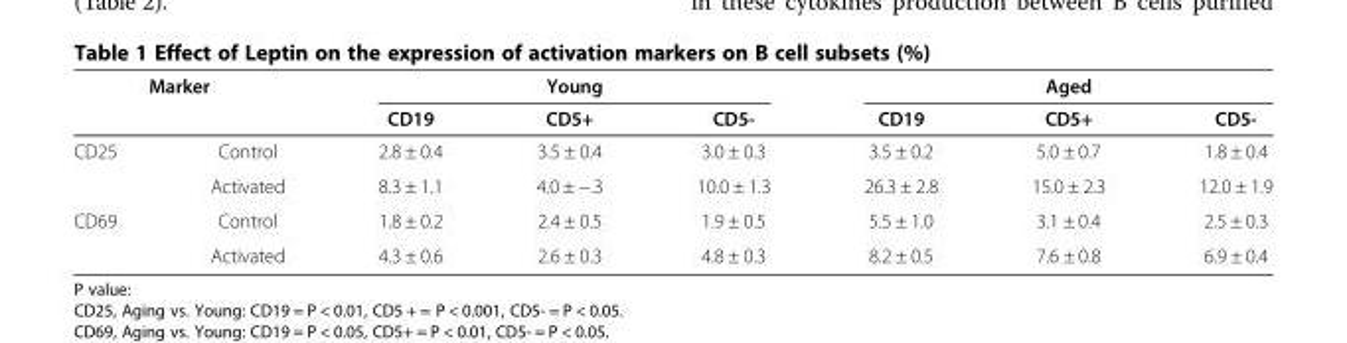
<table><thead><tr><td colspan="2">Marker</td><td colspan="3">Young</td><td colspan="3">Aged</td></tr><tr><td></td><td></td><td>CD19</td><td>CD5+</td><td>CD5-</td><td>CD19</td><td>CD5+</td><td>CD5-</td></tr></thead><tbody><tr><td rowspan="2">CD25</td><td>Control</td><td>2.8 ± 0.4</td><td>3.5 ± 0.4</td><td>3.0 ± 0.3</td><td>3.5 ± 0.2</td><td>5.0 ± 0.7</td><td>1.8 ± 0.4</td></tr><tr><td>Activated</td><td>8.3 ± 1.1</td><td>4.0 ± −.3</td><td>10.0 ± 1.3</td><td>26.3 ± 2.8</td><td>15.0 ± 2.3</td><td>12.0 ± 1.9</td></tr><tr><td rowspan="2">CD69</td><td>Control</td><td>1.8 ± 0.2</td><td>2.4 ± 0.5</td><td>1.9 ± 0.5</td><td>5.5 ± 1.0</td><td>3.1 ± 0.4</td><td>2.5 ± 0.3</td></tr><tr><td>Activated</td><td>4.3 ± 0.6</td><td>2.6 ± 0.3</td><td>4.8 ± 0.3</td><td>8.2 ± 0.5</td><td>7.6 ± 0.8</td><td>6.9 ± 0.4</td></tr></tbody></table>